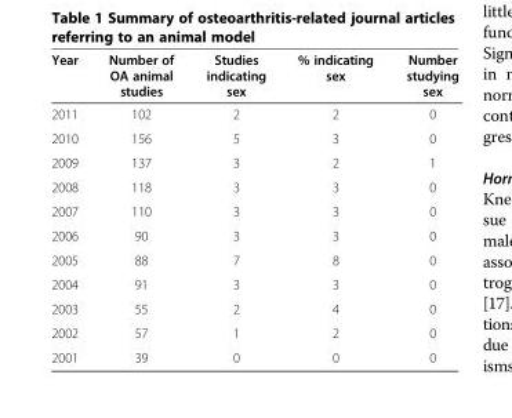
<table><thead><tr><td>Year</td><td>Number of OA animal studies</td><td>Studies indicating sex</td><td>% indicating sex</td><td>Number studying sex</td></tr></thead><tbody><tr><td>2011</td><td>102</td><td>2</td><td>2</td><td>0</td></tr><tr><td>2010</td><td>156</td><td>5</td><td>3</td><td>0</td></tr><tr><td>2009</td><td>137</td><td>3</td><td>2</td><td>1</td></tr><tr><td>2008</td><td>118</td><td>3</td><td>3</td><td>0</td></tr><tr><td>2007</td><td>110</td><td>3</td><td>3</td><td>0</td></tr><tr><td>2006</td><td>90</td><td>3</td><td>3</td><td>0</td></tr><tr><td>2005</td><td>88</td><td>7</td><td>8</td><td>0</td></tr><tr><td>2004</td><td>91</td><td>3</td><td>3</td><td>0</td></tr><tr><td>2003</td><td>55</td><td>2</td><td>4</td><td>0</td></tr><tr><td>2002</td><td>57</td><td>1</td><td>2</td><td>0</td></tr><tr><td>2001</td><td>39</td><td>0</td><td>0</td><td>0</td></tr></tbody></table>